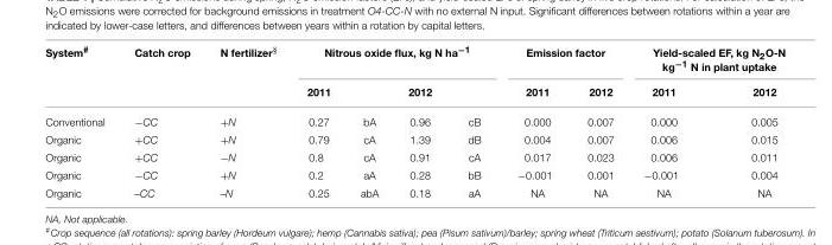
<table><thead><tr><td rowspan="2">System<sup>#</sup></td><td rowspan="2">Catch crop</td><td rowspan="2">N fertilizer<sup>§</sup></td><td colspan="4">Nitrous oxide flux, kg N ha<sup>−1</sup></td><td colspan="2">Emission factor</td><td colspan="2">Yield-scaled EF, kg N<sub>2</sub>O-N kg<sup>−1</sup> N in plant uptake</td></tr><tr><td>2011</td><td></td><td>2012</td><td></td><td>2011</td><td>2012</td><td>2011</td><td>2012</td></tr></thead><tbody><tr><td>Conventional</td><td>−CC</td><td>+N</td><td>0.27</td><td>bA</td><td>0.96</td><td>cB</td><td>0.000</td><td>0.007</td><td>0.000</td><td>0.005</td></tr><tr><td>Organic</td><td>+CC</td><td>+N</td><td>0.79</td><td>cA</td><td>1.39</td><td>dB</td><td>0.004</td><td>0.007</td><td>0.006</td><td>0.015</td></tr><tr><td>Organic</td><td>+CC</td><td>−N</td><td>0.8</td><td>cA</td><td>0.91</td><td>cA</td><td>0.017</td><td>0.023</td><td>0.006</td><td>0.011</td></tr><tr><td>Organic</td><td>−CC</td><td>+N</td><td>0.2</td><td>aA</td><td>0.28</td><td>bB</td><td>−0.001</td><td>0.001</td><td>−0.001</td><td>0.004</td></tr><tr><td>Organic</td><td>–CC</td><td>–N</td><td>0.25</td><td>abA</td><td>0.18</td><td>aA</td><td>NA</td><td>NA</td><td>NA</td><td>NA</td></tr></tbody></table>